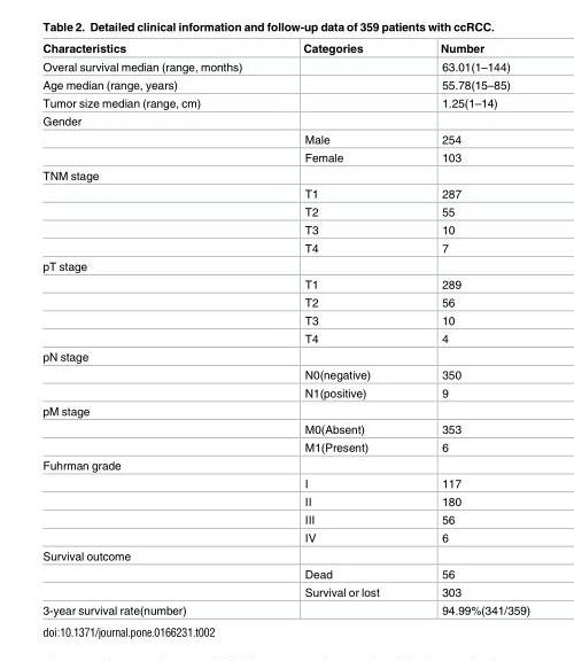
<table><thead><tr><td>Characteristics</td><td>Categories</td><td>Number</td></tr></thead><tbody><tr><td>Overal survival median (range, months)</td><td></td><td>63.01(1–144)</td></tr><tr><td>Age median (range, years)</td><td></td><td>55.78(15–85)</td></tr><tr><td>Tumor size median (range, cm)</td><td></td><td>1.25(1–14)</td></tr><tr><td colspan="3">Gender</td></tr><tr><td></td><td>Male</td><td>254</td></tr><tr><td></td><td>Female</td><td>103</td></tr><tr><td colspan="3">TNM stage</td></tr><tr><td></td><td>T1</td><td>287</td></tr><tr><td></td><td>T2</td><td>55</td></tr><tr><td></td><td>T3</td><td>10</td></tr><tr><td></td><td>T4</td><td>7</td></tr><tr><td colspan="3">pT stage</td></tr><tr><td></td><td>T1</td><td>289</td></tr><tr><td></td><td>T2</td><td>56</td></tr><tr><td></td><td>T3</td><td>10</td></tr><tr><td></td><td>T4</td><td>4</td></tr><tr><td colspan="3">pN stage</td></tr><tr><td></td><td>N0(negative)</td><td>350</td></tr><tr><td></td><td>N1(positive)</td><td>9</td></tr><tr><td colspan="3">pM stage</td></tr><tr><td></td><td>M0(Absent)</td><td>353</td></tr><tr><td></td><td>M1(Present)</td><td>6</td></tr><tr><td colspan="3">Fuhrman grade</td></tr><tr><td></td><td>I</td><td>117</td></tr><tr><td></td><td>II</td><td>180</td></tr><tr><td></td><td>III</td><td>56</td></tr><tr><td></td><td>IV</td><td>6</td></tr><tr><td colspan="3">Survival outcome</td></tr><tr><td></td><td>Dead</td><td>56</td></tr><tr><td></td><td>Survival or lost</td><td>303</td></tr><tr><td>3-year survival rate(number)</td><td></td><td>94.99%(341/359)</td></tr></tbody></table>